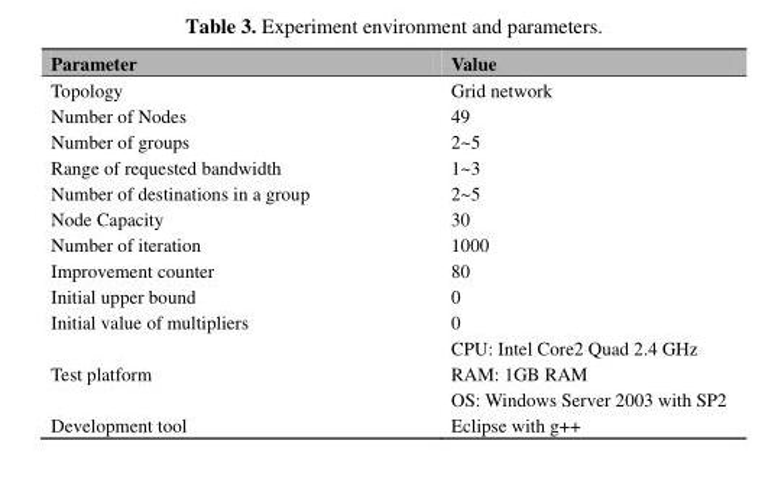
<table><thead><tr><td>Parameter</td><td>Value</td></tr></thead><tbody><tr><td>Topology</td><td>Grid network</td></tr><tr><td>Number of Nodes</td><td>49</td></tr><tr><td>Number of groups</td><td>2~5</td></tr><tr><td>Range of requested bandwidth</td><td>1~3</td></tr><tr><td>Number of destinations in a group</td><td>2~5</td></tr><tr><td>Node Capacity</td><td>30</td></tr><tr><td>Number of iteration</td><td>1000</td></tr><tr><td>Improvement counter</td><td>80</td></tr><tr><td>Initial upper bound</td><td>0</td></tr><tr><td>Initial value of multipliers</td><td>0</td></tr><tr><td rowspan="3">Test platform</td><td>CPU: Intel Core2 Quad 2.4 GHz</td></tr><tr><td>RAM: 1GB RAM</td></tr><tr><td>OS: Windows Server 2003 with SP2</td></tr><tr><td>Development tool</td><td>Eclipse with g++</td></tr></tbody></table>